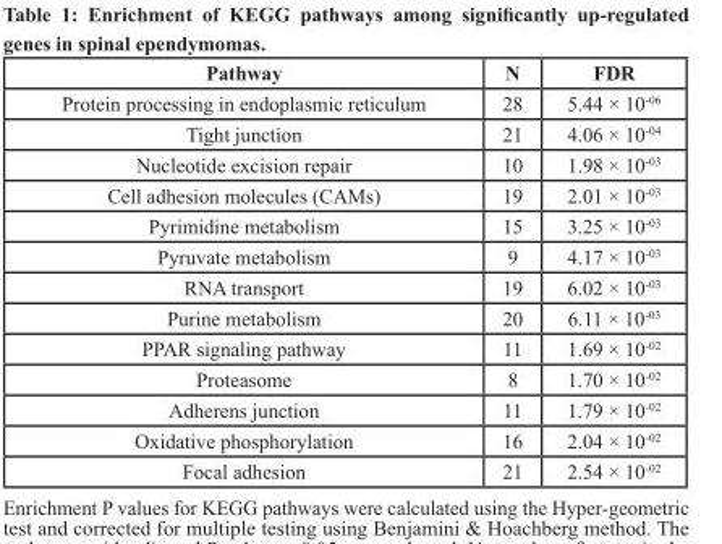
<table><thead><tr><td>Pathway</td><td>N</td><td>FDR</td></tr></thead><tbody><tr><td>Protein processing in endoplasmic reticulum</td><td>28</td><td>5.44 × 10<sup>-06</sup></td></tr><tr><td>Tight junction</td><td>21</td><td>4.06 × 10<sup>-04</sup></td></tr><tr><td>Nucleotide excision repair</td><td>10</td><td>1.98 × 10<sup>-03</sup></td></tr><tr><td>Cell adhesion molecules (CAMs)</td><td>19</td><td>2.01 × 10<sup>-03</sup></td></tr><tr><td>Pyrimidine metabolism</td><td>15</td><td>3.25 × 10<sup>-03</sup></td></tr><tr><td>Pyruvate metabolism</td><td>9</td><td>4.17 × 10<sup>-03</sup></td></tr><tr><td>RNA transport</td><td>19</td><td>6.02 × 10<sup>-03</sup></td></tr><tr><td>Purine metabolism</td><td>20</td><td>6.11 × 10<sup>-03</sup></td></tr><tr><td>PPAR signaling pathway</td><td>11</td><td>1.69 × 10<sup>-02</sup></td></tr><tr><td>Proteasome</td><td>8</td><td>1.70 × 10<sup>-02</sup></td></tr><tr><td>Adherens junction</td><td>11</td><td>1.79 × 10<sup>-02</sup></td></tr><tr><td>Oxidative phosphorylation</td><td>16</td><td>2.04 × 10<sup>-02</sup></td></tr><tr><td>Focal adhesion</td><td>21</td><td>2.54 × 10<sup>-02</sup></td></tr></tbody></table>